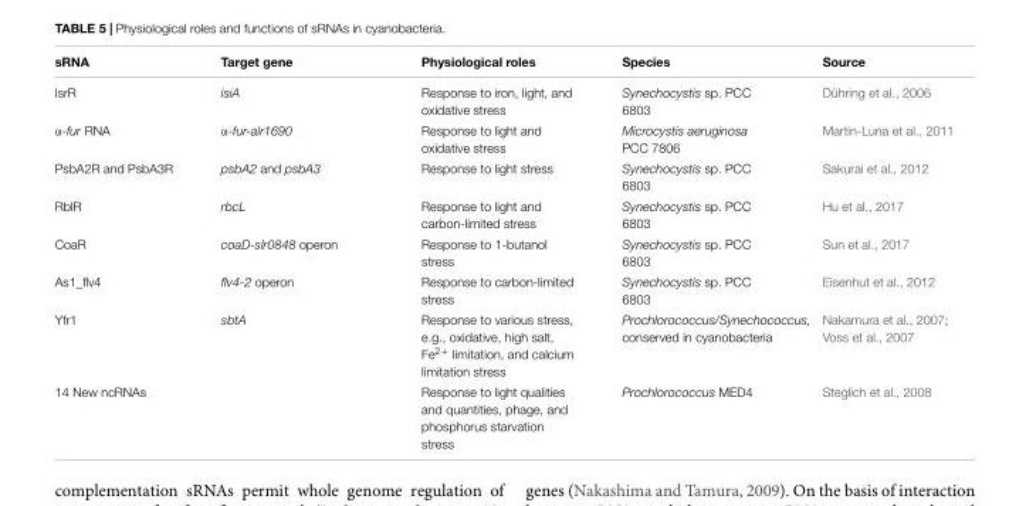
<table><thead><tr><td>sRNA</td><td>Target gene</td><td>Physiological roles</td><td>Species</td><td>Source</td></tr></thead><tbody><tr><td>IsrR</td><td>isiA</td><td>Response to iron, light, and oxidative stress</td><td>Synechocystis sp. PCC 6803</td><td>Dühring et al., 2006</td></tr><tr><td>α-fur RNA</td><td>α-fur-alr1690</td><td>Response to light and oxidative stress</td><td>Microcystis aeruginosa PCC 7806</td><td>Martin-Luna et al., 2011</td></tr><tr><td>PsbA2R and PsbA3R</td><td>psbA2 and psbA3</td><td>Response to light stress</td><td>Synechocystis sp. PCC 6803</td><td>Sakurai et al., 2012</td></tr><tr><td>RblR</td><td>rbcL</td><td>Response to light and carbon-limited stress</td><td>Synechocystis sp. PCC 6803</td><td>Hu et al., 2017</td></tr><tr><td>CoaR</td><td>coaD-slr0848 operon</td><td>Response to 1-butanol stress</td><td>Synechocystis sp. PCC 6803</td><td>Sun et al., 2017</td></tr><tr><td>As1_flv4</td><td>flv4-2 operon</td><td>Response to carbon-limited stress</td><td>Synechocystis sp. PCC 6803</td><td>Eisenhut et al., 2012</td></tr><tr><td>Yfr1</td><td>sbtA</td><td>Response to various stress, e.g., oxidative, high salt, Fe<sup>2+</sup> limitation, and calcium limitation stress</td><td>Prochlorococcus/Synechococcus, conserved in cyanobacteria</td><td>Nakamura et al., 2007; Voss et al., 2007</td></tr><tr><td>14 New ncRNAs</td><td></td><td>Response to light qualities and quantities, phage, and phosphorus starvation stress</td><td>Prochlorococcus MED4</td><td>Steglich et al., 2008</td></tr></tbody></table>